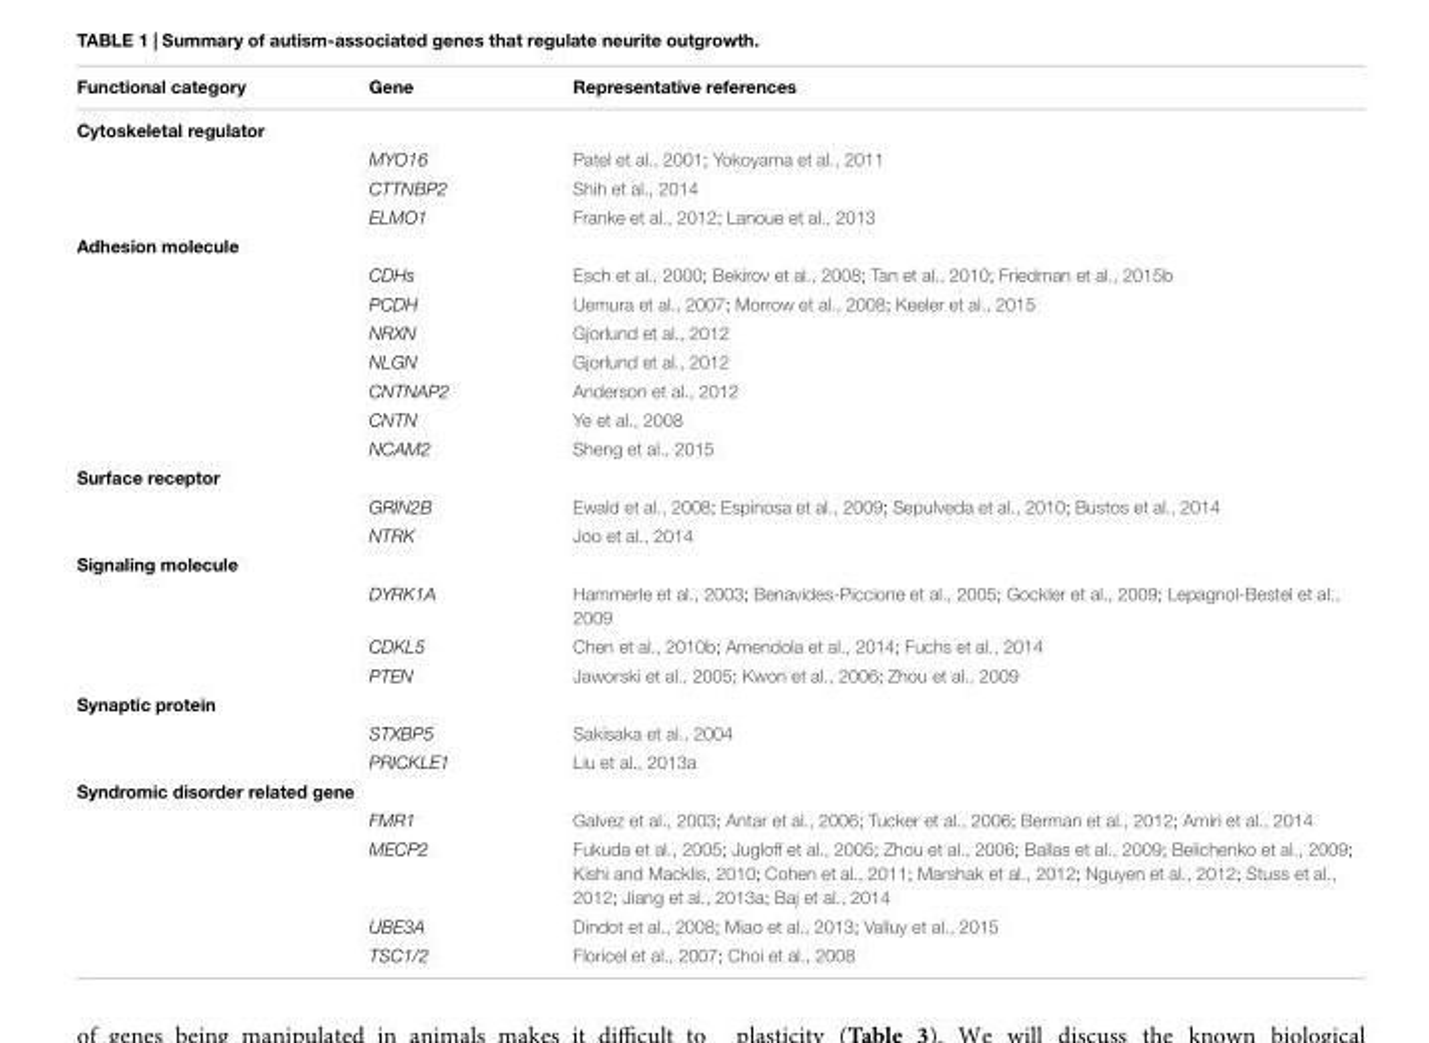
<table><thead><tr><td>Functional category</td><td>Gene</td><td>Representative references</td></tr></thead><tbody><tr><td colspan="3">Cytoskeletal regulator</td></tr><tr><td></td><td>MYO16</td><td>Patel et al., 2001; Yokoyama et al., 2011</td></tr><tr><td></td><td>CTTNBP2</td><td>Shih et al., 2014</td></tr><tr><td></td><td>ELMO1</td><td>Franke et al., 2012; Lanoue et al., 2013</td></tr><tr><td colspan="3">Adhesion molecule</td></tr><tr><td></td><td>CDHs</td><td>Esch et al., 2000; Bekirov et al., 2008; Tan et al., 2010; Friedman et al., 2015b</td></tr><tr><td></td><td>PCDH</td><td>Uemura et al., 2007; Morrow et al., 2008; Keeler et al., 2015</td></tr><tr><td></td><td>NRXN</td><td>Gjorlund et al., 2012</td></tr><tr><td></td><td>NLGN</td><td>Gjorlund et al., 2012</td></tr><tr><td></td><td>CNTNAP2</td><td>Anderson et al., 2012</td></tr><tr><td></td><td>CNTN</td><td>Ye et al., 2008</td></tr><tr><td></td><td>NCAM2</td><td>Sheng et al., 2015</td></tr><tr><td colspan="3">Surface receptor</td></tr><tr><td></td><td>GRIN2B</td><td>Ewald et al., 2008; Espinosa et al., 2009; Sepulveda et al., 2010; Bustos et al., 2014</td></tr><tr><td></td><td>NTRK</td><td>Joo et al., 2014</td></tr><tr><td colspan="3">Signaling molecule</td></tr><tr><td></td><td>DYRK1A</td><td>Hammerle et al., 2003; Benavides-Piccione et al., 2005; Gockler et al., 2009; Lepagnol-Bestel et al., 2009</td></tr><tr><td></td><td>CDKL5</td><td>Chen et al., 2010b; Amendola et al., 2014; Fuchs et al., 2014</td></tr><tr><td></td><td>PTEN</td><td>Jaworski et al., 2005; Kwon et al., 2006; Zhou et al., 2009</td></tr><tr><td colspan="3">Synaptic protein</td></tr><tr><td></td><td>STXBP5</td><td>Sakisaka et al., 2004</td></tr><tr><td></td><td>PRICKLE1</td><td>Liu et al., 2013a</td></tr><tr><td colspan="3">Syndromic disorder related gene</td></tr><tr><td></td><td>FMR1</td><td>Galvez et al., 2003; Antar et al., 2006; Tucker et al., 2006; Berman et al., 2012; Amiri et al., 2014</td></tr><tr><td></td><td>MECP2</td><td>Fukuda et al., 2005; Jugloff et al., 2005; Zhou et al., 2006; Ballas et al., 2009; Belichenko et al., 2009; Kishi and Macklis, 2010; Cohen et al., 2011; Marshak et al., 2012; Nguyen et al., 2012; Stuss et al., 2012; Jiang et al., 2013a; Baj et al., 2014</td></tr><tr><td></td><td>UBE3A</td><td>Dindot et al., 2008; Miao et al., 2013; Valluy et al., 2015</td></tr><tr><td></td><td>TSC1/2</td><td>Floricel et al., 2007; Choi et al., 2008</td></tr></tbody></table>